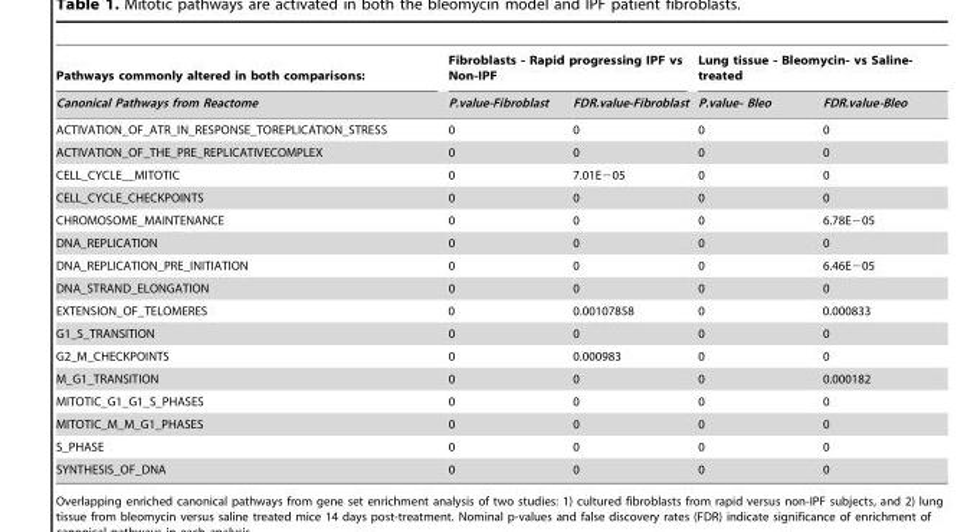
<table><thead><tr><td rowspan="2">Pathways commonly altered in both comparisons: Canonical Pathways from Reactome</td><td colspan="2">Fibroblasts - Rapid progressing IPF vs Non-IPF</td><td colspan="2">Lung tissue - Bleomycin- vs Saline- treated</td></tr><tr><td>P.value-Fibroblast</td><td>FDR.value-Fibroblast</td><td>P.value- Bleo</td><td>FDR.value-Bleo</td></tr></thead><tbody><tr><td>ACTIVATION_OF_ATR_IN_RESPONSE_TOREPLICATION_STRESS</td><td>0</td><td>0</td><td>0</td><td>0</td></tr><tr><td>ACTIVATION_OF_THE_PRE_REPLICATIVECOMPLEX</td><td>0</td><td>0</td><td>0</td><td>0</td></tr><tr><td>CELL_CYCLE__MITOTIC</td><td>0</td><td>7.01E−05</td><td>0</td><td>0</td></tr><tr><td>CELL_CYCLE_CHECKPOINTS</td><td>0</td><td>0</td><td>0</td><td>0</td></tr><tr><td>CHROMOSOME_MAINTENANCE</td><td>0</td><td>0</td><td>0</td><td>6.78E−05</td></tr><tr><td>DNA_REPLICATION</td><td>0</td><td>0</td><td>0</td><td>0</td></tr><tr><td>DNA_REPLICATION_PRE_INITIATION</td><td>0</td><td>0</td><td>0</td><td>6.46E−05</td></tr><tr><td>DNA_STRAND_ELONGATION</td><td>0</td><td>0</td><td>0</td><td>0</td></tr><tr><td>EXTENSION_OF_TELOMERES</td><td>0</td><td>0.00107858</td><td>0</td><td>0.000833</td></tr><tr><td>G1_S_TRANSITION</td><td>0</td><td>0</td><td>0</td><td>0</td></tr><tr><td>G2_M_CHECKPOINTS</td><td>0</td><td>0.000983</td><td>0</td><td>0</td></tr><tr><td>M_G1_TRANSITION</td><td>0</td><td>0</td><td>0</td><td>0.000182</td></tr><tr><td>MITOTIC_G1_G1_S_PHASES</td><td>0</td><td>0</td><td>0</td><td>0</td></tr><tr><td>MITOTIC_M_M_G1_PHASES</td><td>0</td><td>0</td><td>0</td><td>0</td></tr><tr><td>S_PHASE</td><td>0</td><td>0</td><td>0</td><td>0</td></tr><tr><td>SYNTHESIS_OF_DNA</td><td>0</td><td>0</td><td>0</td><td>0</td></tr></tbody></table>